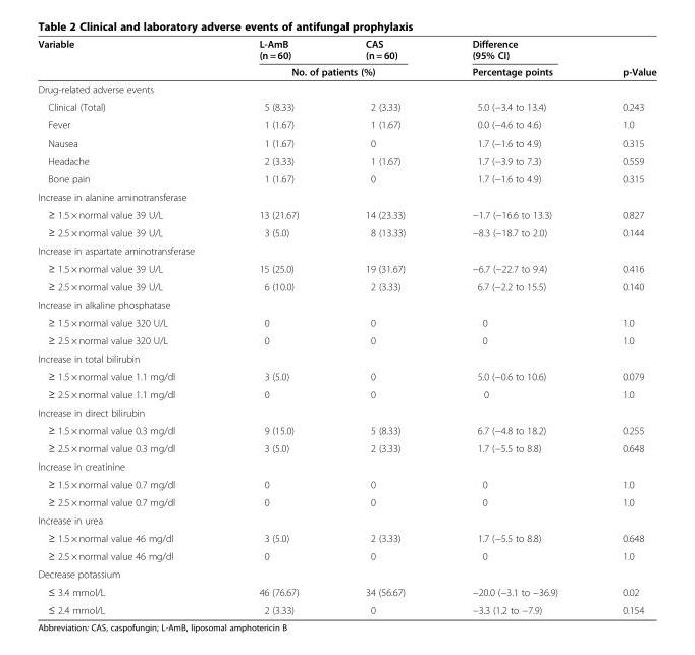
<table><thead><tr><td rowspan="2">Variable</td><td>L-AmB (n = 60)</td><td>CAS (n = 60)</td><td rowspan="2">Difference (95% CI) Percentage points</td><td rowspan="2">p-Value</td></tr><tr><td colspan="2">No. of patients (%)</td></tr></thead><tbody><tr><td colspan="5">Drug-related adverse events</td></tr><tr><td>Clinical (Total)</td><td>5 (8.33)</td><td>2 (3.33)</td><td>5.0 (−3.4 to 13.4)</td><td>0.243</td></tr><tr><td>Fever</td><td>1 (1.67)</td><td>1 (1.67)</td><td>0.0 (−4.6 to 4.6)</td><td>1.0</td></tr><tr><td>Nausea</td><td>1 (1.67)</td><td>0</td><td>1.7 (−1.6 to 4.9)</td><td>0.315</td></tr><tr><td>Headache</td><td>2 (3.33)</td><td>1 (1.67)</td><td>1.7 (−3.9 to 7.3)</td><td>0.559</td></tr><tr><td>Bone pain</td><td>1 (1.67)</td><td>0</td><td>1.7 (−1.6 to 4.9)</td><td>0.315</td></tr><tr><td colspan="5">Increase in alanine aminotransferase</td></tr><tr><td>≥ 1.5 × normal value 39 U/L</td><td>13 (21.67)</td><td>14 (23.33)</td><td>−1.7 (−16.6 to 13.3)</td><td>0.827</td></tr><tr><td>≥ 2.5 × normal value 39 U/L</td><td>3 (5.0)</td><td>8 (13.33)</td><td>−8.3 (−18.7 to 2.0)</td><td>0.144</td></tr><tr><td colspan="5">Increase in aspartate aminotransferase</td></tr><tr><td>≥ 1.5 × normal value 39 U/L</td><td>15 (25.0)</td><td>19 (31.67)</td><td>−6.7 (−22.7 to 9.4)</td><td>0.416</td></tr><tr><td>≥ 2.5 × normal value 39 U/L</td><td>6 (10.0)</td><td>2 (3.33)</td><td>6.7 (−2.2 to 15.5)</td><td>0.140</td></tr><tr><td colspan="5">Increase in alkaline phosphatase</td></tr><tr><td>≥ 1.5 × normal value 320 U/L</td><td>0</td><td>0</td><td>0</td><td>1.0</td></tr><tr><td>≥ 2.5 × normal value 320 U/L</td><td>0</td><td>0</td><td>0</td><td>1.0</td></tr><tr><td colspan="5">Increase in total bilirubin</td></tr><tr><td>≥ 1.5 × normal value 1.1 mg/dl</td><td>3 (5.0)</td><td>0</td><td>5.0 (−0.6 to 10.6)</td><td>0.079</td></tr><tr><td>≥ 2.5 × normal value 1.1 mg/dl</td><td>0</td><td>0</td><td>0</td><td>1.0</td></tr><tr><td colspan="5">Increase in direct bilirubin</td></tr><tr><td>≥ 1.5 × normal value 0.3 mg/dl</td><td>9 (15.0)</td><td>5 (8.33)</td><td>6.7 (−4.8 to 18.2)</td><td>0.255</td></tr><tr><td>≥ 2.5 × normal value 0.3 mg/dl</td><td>3 (5.0)</td><td>2 (3.33)</td><td>1.7 (−5.5 to 8.8)</td><td>0.648</td></tr><tr><td colspan="5">Increase in creatinine</td></tr><tr><td>≥ 1.5 × normal value 0.7 mg/dl</td><td>0</td><td>0</td><td>0</td><td>1.0</td></tr><tr><td>≥ 2.5 × normal value 0.7 mg/dl</td><td>0</td><td>0</td><td>0</td><td>1.0</td></tr><tr><td colspan="5">Increase in urea</td></tr><tr><td>≥ 1.5 × normal value 46 mg/dl</td><td>3 (5.0)</td><td>2 (3.33)</td><td>1.7 (−5.5 to 8.8)</td><td>0.648</td></tr><tr><td>≥ 2.5 × normal value 46 mg/dl</td><td>0</td><td>0</td><td>0</td><td>1.0</td></tr><tr><td colspan="5">Decrease potassium</td></tr><tr><td>≤ 3.4 mmol/L</td><td>46 (76.67)</td><td>34 (56.67)</td><td>−20.0 (−3.1 to −36.9)</td><td>0.02</td></tr><tr><td>≤ 2.4 mmol/L</td><td>2 (3.33)</td><td>0</td><td>−3.3 (1.2 to −7.9)</td><td>0.154</td></tr></tbody></table>